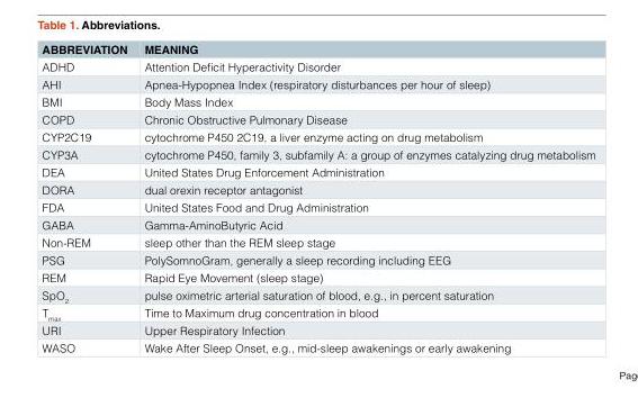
<table><thead><tr><td>ABBREVIATION</td><td>MEANING</td></tr></thead><tbody><tr><td>ADHD</td><td>Attention Deficit Hyperactivity Disorder</td></tr><tr><td>AHI</td><td>Apnea-Hypopnea Index (respiratory disturbances per hour of sleep)</td></tr><tr><td>BMI</td><td>Body Mass Index</td></tr><tr><td>COPD</td><td>Chronic Obstructive Pulmonary Disease</td></tr><tr><td>CYP2C19</td><td>cytochrome P450 2C19, a liver enzyme acting on drug metabolism</td></tr><tr><td>CYP3A</td><td>cytochrome P450, family 3, subfamily A: a group of enzymes catalyzing drug metabolism</td></tr><tr><td>DEA</td><td>United States Drug Enforcement Administration</td></tr><tr><td>DORA</td><td>dual orexin receptor antagonist</td></tr><tr><td>FDA</td><td>United States Food and Drug Administration</td></tr><tr><td>GABA</td><td>Gamma-AminoButyric Acid</td></tr><tr><td>Non-REM</td><td>sleep other than the REM sleep stage</td></tr><tr><td>PSG</td><td>PolySomnoGram, generally a sleep recording including EEG</td></tr><tr><td>REM</td><td>Rapid Eye Movement (sleep stage)</td></tr><tr><td>SpO<sub>2</sub></td><td>pulse oximetric arterial saturation of blood, e.g., in percent saturation</td></tr><tr><td>T<sub>max</sub></td><td>Time to Maximum drug concentration in blood</td></tr><tr><td>URI</td><td>Upper Respiratory Infection</td></tr><tr><td>WASO</td><td>Wake After Sleep Onset, e.g., mid-sleep awakenings or early awakening</td></tr></tbody></table>